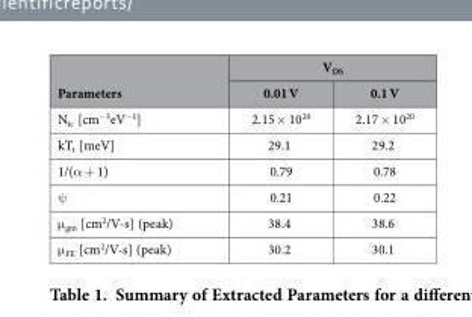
<table><thead><tr><td rowspan="2">Parameters</td><td colspan="2">V<sub>DS</sub></td></tr><tr><td>0.01 V</td><td>0.1 V</td></tr></thead><tbody><tr><td>N<sub>tc</sub> [cm<sup>−3</sup>eV<sup>−1</sup>]</td><td>2.15 × 10<sup>20</sup></td><td>2.17 × 10<sup>20</sup></td></tr><tr><td>kT<sub>t</sub> [meV]</td><td>29.1</td><td>29.2</td></tr><tr><td>1/(α + 1)</td><td>0.79</td><td>0.78</td></tr><tr><td>ψ</td><td>0.21</td><td>0.22</td></tr><tr><td>μ <sub>gm</sub> [cm<sup>2</sup>/V-s] (peak)</td><td>38.4</td><td>38.6</td></tr><tr><td>μ <sub>FE</sub> [cm<sup>2</sup>/V-s] (peak)</td><td>30.2</td><td>30.1</td></tr></tbody></table>